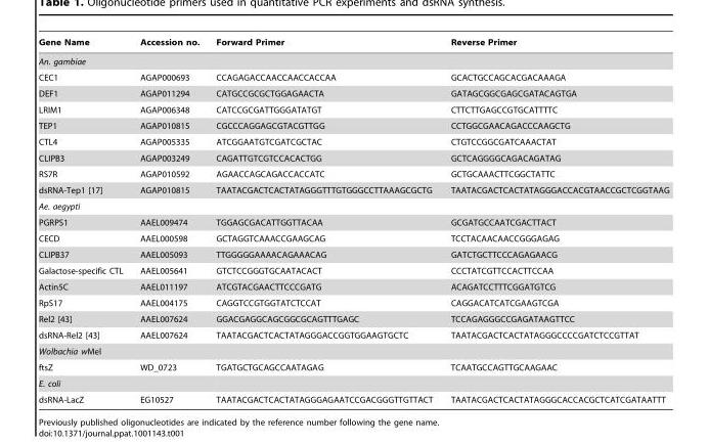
<table><thead><tr><td>Gene Name</td><td>Accession no.</td><td>Forward Primer</td><td>Reverse Primer</td></tr></thead><tbody><tr><td colspan="4">An. gambiae</td></tr><tr><td>CEC1</td><td>AGAP000693</td><td>CCAGAGACCAACCAACCACCAA</td><td>GCACTGCCAGCACGACAAAGA</td></tr><tr><td>DEF1</td><td>AGAP011294</td><td>CATGCCGCGCTGGAGAACTA</td><td>GATAGCGGCGAGCGATACAGTGA</td></tr><tr><td>LRIM1</td><td>AGAP006348</td><td>CATCCGCGATTGGGATATGT</td><td>CTTCTTGAGCCGTGCATTTTC</td></tr><tr><td>TEP1</td><td>AGAP010815</td><td>CGCCCAGGAGCGTACGTTGG</td><td>CCTGGCGAACAGACCCAAGCTG</td></tr><tr><td>CTL4</td><td>AGAP005335</td><td>ATCGGAATGTCGATCGCTAC</td><td>CTGTCCGGCGATCAAACTAT</td></tr><tr><td>CLIPB3</td><td>AGAP003249</td><td>CAGATTGTCGTCCACACTGG</td><td>GCTCAGGGGCAGACAGATAG</td></tr><tr><td>RS7R</td><td>AGAP010592</td><td>AGAACCAGCAGACCACCATC</td><td>GCTGCAAACTTCGGCTATTC</td></tr><tr><td>dsRNA-Tep1 [17]</td><td>AGAP010815</td><td>TAATACGACTCACTATAGGGTTTGTGGGCCTTAAAGCGCTG</td><td>TAATACGACTCACTATAGGGACCACGTAACCGCTCGGTAAG</td></tr><tr><td colspan="4">Ae. aegypti</td></tr><tr><td>PGRPS1</td><td>AAEL009474</td><td>TGGAGCGACATTGGTTACAA</td><td>GCGATGCCAATCGACTTACT</td></tr><tr><td>CECD</td><td>AAEL000598</td><td>GCTAGGTCAAACCGAAGCAG</td><td>TCCTACAACAACCGGGAGAG</td></tr><tr><td>CLIPB37</td><td>AAEL005093</td><td>TTGGGGGAAAACAGAAACAG</td><td>GATCTGCTTCCCAGAGAACG</td></tr><tr><td>Galactose-specific CTL</td><td>AAEL005641</td><td>GTCTCCGGGTGCAATACACT</td><td>CCCTATCGTTCCACTTCCAA</td></tr><tr><td>Actin5C</td><td>AAEL011197</td><td>ATCGTACGAACTTCCCGATG</td><td>ACAGATCCTTTCGGATGTCG</td></tr><tr><td>RpS17</td><td>AAEL004175</td><td>CAGGTCCGTGGTATCTCCAT</td><td>CAGGACATCATCGAAGTCGA</td></tr><tr><td>Rel2 [43]</td><td>AAEL007624</td><td>GGACGAGGCAGCGGCGCAGTTTGAGC</td><td>TCCAGAGGGCCGAGATAAGTTCC</td></tr><tr><td>dsRNA-Rel2 [43]</td><td>AAEL007624</td><td>TAATACGACTCACTATAGGGACCGGTGGAAGTGCTC</td><td>TAATACGACTCACTATAGGGCCCCGATCTCCGTTAT</td></tr><tr><td colspan="4">Wolbachia wMel</td></tr><tr><td>ftsZ</td><td>WD_0723</td><td>TGATGCTGCAGCCAATAGAG</td><td>TCAATGCCAGTTGCAAGAAC</td></tr><tr><td colspan="4">E. coli</td></tr><tr><td>dsRNA-LacZ</td><td>EG10527</td><td>TAATACGACTCACTATAGGGAGAATCCGACGGGTTGTTACT</td><td>TAATACGACTCACTATAGGGCACCACGCTCATCGATAATTT</td></tr></tbody></table>